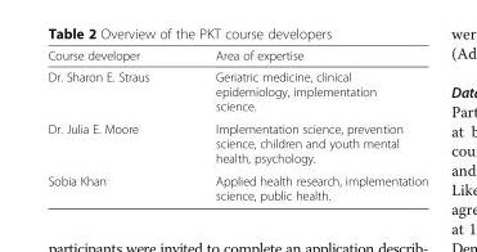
<table><thead><tr><td>Course developer</td><td>Area of expertise</td></tr></thead><tbody><tr><td>Dr. Sharon E. Straus</td><td>Geriatric medicine, clinical epidemiology, implementation science.</td></tr><tr><td>Dr. Julia E. Moore</td><td>Implementation science, prevention science, children and youth mental health, psychology.</td></tr><tr><td>Sobia Khan</td><td>Applied health research, implementation science, public health.</td></tr></tbody></table>